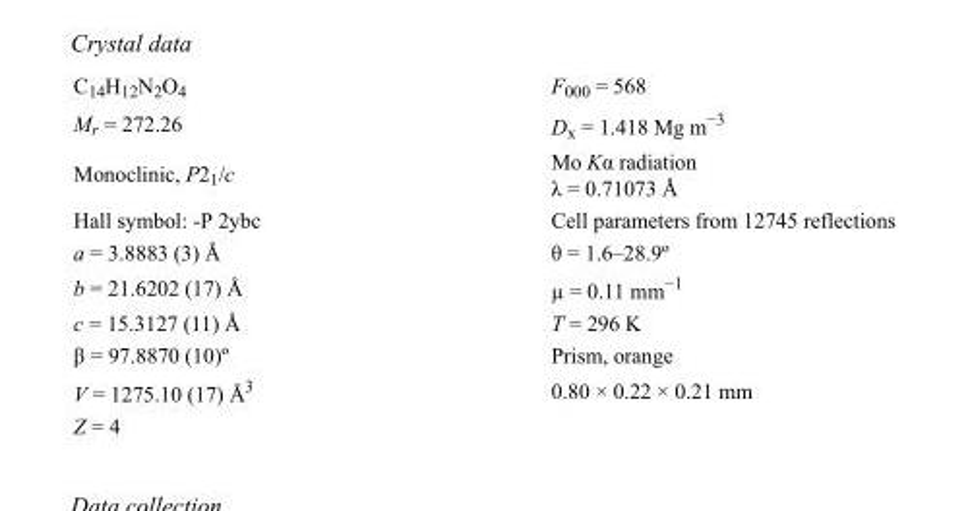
<table><tbody><tr><td>C<sub>14</sub>H<sub>12</sub>N<sub>2</sub>O<sub>4</sub></td><td>F000 = 568</td></tr><tr><td>M<sub>r</sub> = 272.26</td><td>D<sub>x</sub> = 1.418 Mg m<sup>−3</sup></td></tr><tr><td>Monoclinic, P2<sub>1</sub>/c</td><td>Mo Kα radiation λ = 0.71073 Å</td></tr><tr><td>Hall symbol: -P 2ybc</td><td>Cell parameters from 12745 reflections</td></tr><tr><td>a = 3.8883 (3) Å</td><td>θ = 1.6–28.9º</td></tr><tr><td>b = 21.6202 (17) Å</td><td>µ = 0.11 mm<sup>−1</sup></td></tr><tr><td>c = 15.3127 (11) Å</td><td>T = 296 K</td></tr><tr><td>β = 97.8870 (10)º</td><td>Prism, orange</td></tr><tr><td>V = 1275.10 (17) Å<sup>3</sup></td><td>0.80 × 0.22 × 0.21 mm</td></tr><tr><td>Z = 4</td><td></td></tr></tbody></table>